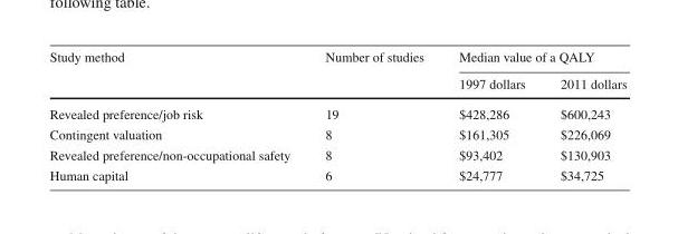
<table><thead><tr><td rowspan="2">Study method</td><td rowspan="2">Number of studies</td><td colspan="2">Median value of a QALY</td></tr><tr><td>1997 dollars</td><td>2011 dollars</td></tr></thead><tbody><tr><td>Revealed preference/job risk</td><td>19</td><td>$428,286</td><td>$600,243</td></tr><tr><td>Contingent valuation</td><td>8</td><td>$161,305</td><td>$226,069</td></tr><tr><td>Revealed preference/non-occupational safety</td><td>8</td><td>$93,402</td><td>$130,903</td></tr><tr><td>Human capital</td><td>6</td><td>$24,777</td><td>$34,725</td></tr></tbody></table>